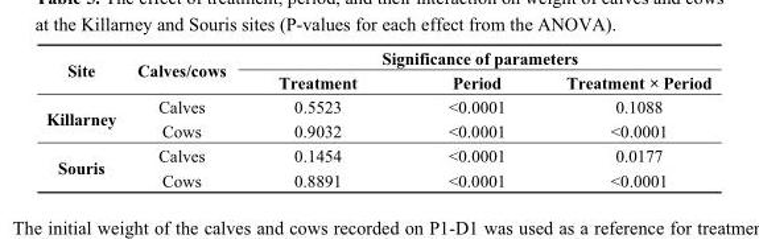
<table><thead><tr><td rowspan="2">Site</td><td rowspan="2">Calves/cows</td><td colspan="3">Significance of parameters</td></tr><tr><td>Treatment</td><td>Period</td><td>Treatment × Period</td></tr></thead><tbody><tr><td rowspan="2">Killarney</td><td>Calves</td><td>0.5523</td><td>&lt;0.0001</td><td>0.1088</td></tr><tr><td>Cows</td><td>0.9032</td><td>&lt;0.0001</td><td>&lt;0.0001</td></tr><tr><td rowspan="2">Souris</td><td>Calves</td><td>0.1454</td><td>&lt;0.0001</td><td>0.0177</td></tr><tr><td>Cows</td><td>0.8891</td><td>&lt;0.0001</td><td>&lt;0.0001</td></tr></tbody></table>